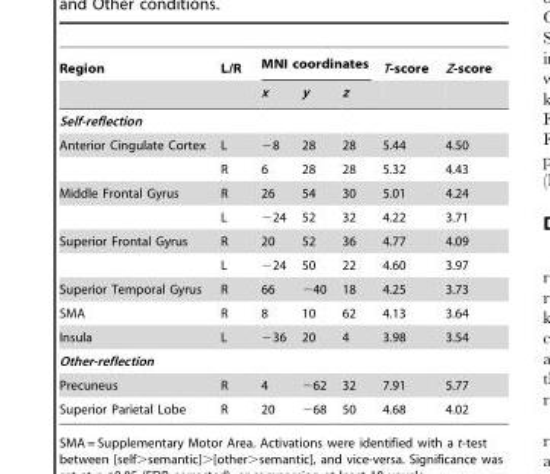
<table><thead><tr><td rowspan="2">Region</td><td rowspan="2">L/R</td><td colspan="3">MNI coordinates</td><td rowspan="2">T-score</td><td rowspan="2">Z-score</td></tr><tr><td>x</td><td>y</td><td>z</td></tr></thead><tbody><tr><td colspan="7">Self-reflection</td></tr><tr><td rowspan="2">Anterior Cingulate Cortex</td><td>L</td><td>−8</td><td>28</td><td>28</td><td>5.44</td><td>4.50</td></tr><tr><td>R</td><td>6</td><td>28</td><td>28</td><td>5.32</td><td>4.43</td></tr><tr><td rowspan="2">Middle Frontal Gyrus</td><td>R</td><td>26</td><td>54</td><td>30</td><td>5.01</td><td>4.24</td></tr><tr><td>L</td><td>−24</td><td>52</td><td>32</td><td>4.22</td><td>3.71</td></tr><tr><td rowspan="2">Superior Frontal Gyrus</td><td>R</td><td>20</td><td>52</td><td>36</td><td>4.77</td><td>4.09</td></tr><tr><td>L</td><td>−24</td><td>50</td><td>22</td><td>4.60</td><td>3.97</td></tr><tr><td>Superior Temporal Gyrus</td><td>R</td><td>66</td><td>−40</td><td>18</td><td>4.25</td><td>3.73</td></tr><tr><td>SMA</td><td>R</td><td>8</td><td>10</td><td>62</td><td>4.13</td><td>3.64</td></tr><tr><td>Insula</td><td>L</td><td>−36</td><td>20</td><td>4</td><td>3.98</td><td>3.54</td></tr><tr><td colspan="7">Other-reflection</td></tr><tr><td>Precuneus</td><td>R</td><td>4</td><td>−62</td><td>32</td><td>7.91</td><td>5.77</td></tr><tr><td>Superior Parietal Lobe</td><td>R</td><td>20</td><td>−68</td><td>50</td><td>4.68</td><td>4.02</td></tr></tbody></table>